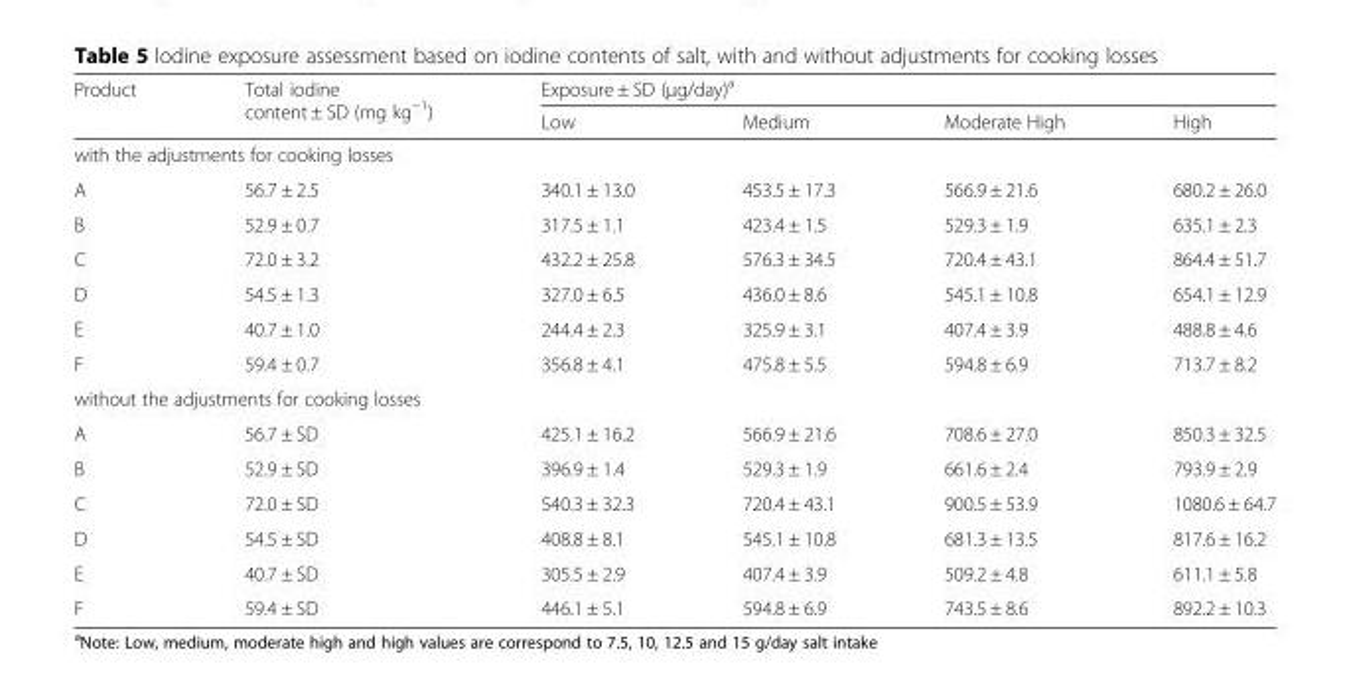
<table><thead><tr><td rowspan="2">Product</td><td rowspan="2">Total iodine content ± SD (mg kg<sup>−1</sup>)</td><td colspan="4">Exposure ± SD (μg/day)<sup>a</sup></td></tr><tr><td>Low</td><td>Medium</td><td>Moderate High</td><td>High</td></tr></thead><tbody><tr><td colspan="6">with the adjustments for cooking losses</td></tr><tr><td>A</td><td>56.7 ± 2.5</td><td>340.1 ± 13.0</td><td>453.5 ± 17.3</td><td>566.9 ± 21.6</td><td>680.2 ± 26.0</td></tr><tr><td>B</td><td>52.9 ± 0.7</td><td>317.5 ± 1.1</td><td>423.4 ± 1.5</td><td>529.3 ± 1.9</td><td>635.1 ± 2.3</td></tr><tr><td>C</td><td>72.0 ± 3.2</td><td>432.2 ± 25.8</td><td>576.3 ± 34.5</td><td>720.4 ± 43.1</td><td>864.4 ± 51.7</td></tr><tr><td>D</td><td>54.5 ± 1.3</td><td>327.0 ± 6.5</td><td>436.0 ± 8.6</td><td>545.1 ± 10.8</td><td>654.1 ± 12.9</td></tr><tr><td>E</td><td>40.7 ± 1.0</td><td>244.4 ± 2.3</td><td>325.9 ± 3.1</td><td>407.4 ± 3.9</td><td>488.8 ± 4.6</td></tr><tr><td>F</td><td>59.4 ± 0.7</td><td>356.8 ± 4.1</td><td>475.8 ± 5.5</td><td>594.8 ± 6.9</td><td>713.7 ± 8.2</td></tr><tr><td colspan="6">without the adjustments for cooking losses</td></tr><tr><td>A</td><td>56.7 ± SD</td><td>425.1 ± 16.2</td><td>566.9 ± 21.6</td><td>708.6 ± 27.0</td><td>850.3 ± 32.5</td></tr><tr><td>B</td><td>52.9 ± SD</td><td>396.9 ± 1.4</td><td>529.3 ± 1.9</td><td>661.6 ± 2.4</td><td>793.9 ± 2.9</td></tr><tr><td>C</td><td>72.0 ± SD</td><td>540.3 ± 32.3</td><td>720.4 ± 43.1</td><td>900.5 ± 53.9</td><td>1080.6 ± 64.7</td></tr><tr><td>D</td><td>54.5 ± SD</td><td>408.8 ± 8.1</td><td>545.1 ± 10.8</td><td>681.3 ± 13.5</td><td>817.6 ± 16.2</td></tr><tr><td>E</td><td>40.7 ± SD</td><td>305.5 ± 2.9</td><td>407.4 ± 3.9</td><td>509.2 ± 4.8</td><td>611.1 ± 5.8</td></tr><tr><td>F</td><td>59.4 ± SD</td><td>446.1 ± 5.1</td><td>594.8 ± 6.9</td><td>743.5 ± 8.6</td><td>892.2 ± 10.3</td></tr></tbody></table>